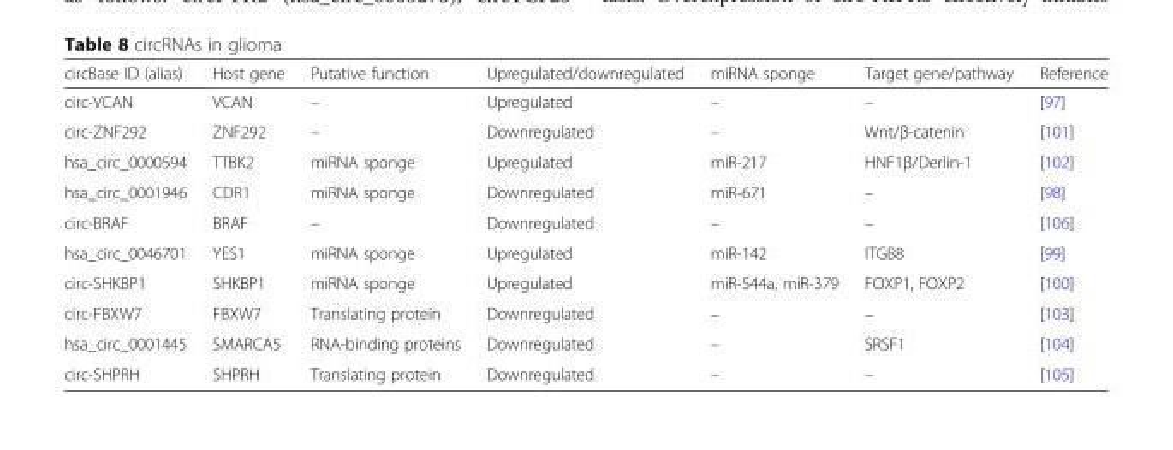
<table><thead><tr><td>circBase ID (alias)</td><td>Host gene</td><td>Putative function</td><td>Upregulated/downregulated</td><td>miRNA sponge</td><td>Target gene/pathway</td><td>Reference</td></tr></thead><tbody><tr><td>circ-VCAN</td><td>VCAN</td><td>–</td><td>Upregulated</td><td>–</td><td>–</td><td>[97]</td></tr><tr><td>circ-ZNF292</td><td>ZNF292</td><td>–</td><td>Downregulated</td><td>–</td><td>Wnt/β-catenin</td><td>[101]</td></tr><tr><td>hsa_circ_0000594</td><td>TTBK2</td><td>miRNA sponge</td><td>Upregulated</td><td>miR-217</td><td>HNF1β/Derlin-1</td><td>[102]</td></tr><tr><td>hsa_circ_0001946</td><td>CDR1</td><td>miRNA sponge</td><td>Downregulated</td><td>miR-671</td><td>–</td><td>[98]</td></tr><tr><td>circ-BRAF</td><td>BRAF</td><td>–</td><td>Downregulated</td><td>–</td><td>–</td><td>[106]</td></tr><tr><td>hsa_circ_0046701</td><td>YES1</td><td>miRNA sponge</td><td>Upregulated</td><td>miR-142</td><td>ITGB8</td><td>[99]</td></tr><tr><td>circ-SHKBP1</td><td>SHKBP1</td><td>miRNA sponge</td><td>Upregulated</td><td>miR-544a, miR-379</td><td>FOXP1, FOXP2</td><td>[100]</td></tr><tr><td>circ-FBXW7</td><td>FBXW7</td><td>Translating protein</td><td>Downregulated</td><td>–</td><td>–</td><td>[103]</td></tr><tr><td>hsa_circ_0001445</td><td>SMARCA5</td><td>RNA-binding proteins</td><td>Downregulated</td><td>–</td><td>SRSF1</td><td>[104]</td></tr><tr><td>circ-SHPRH</td><td>SHPRH</td><td>Translating protein</td><td>Downregulated</td><td>–</td><td>–</td><td>[105]</td></tr></tbody></table>